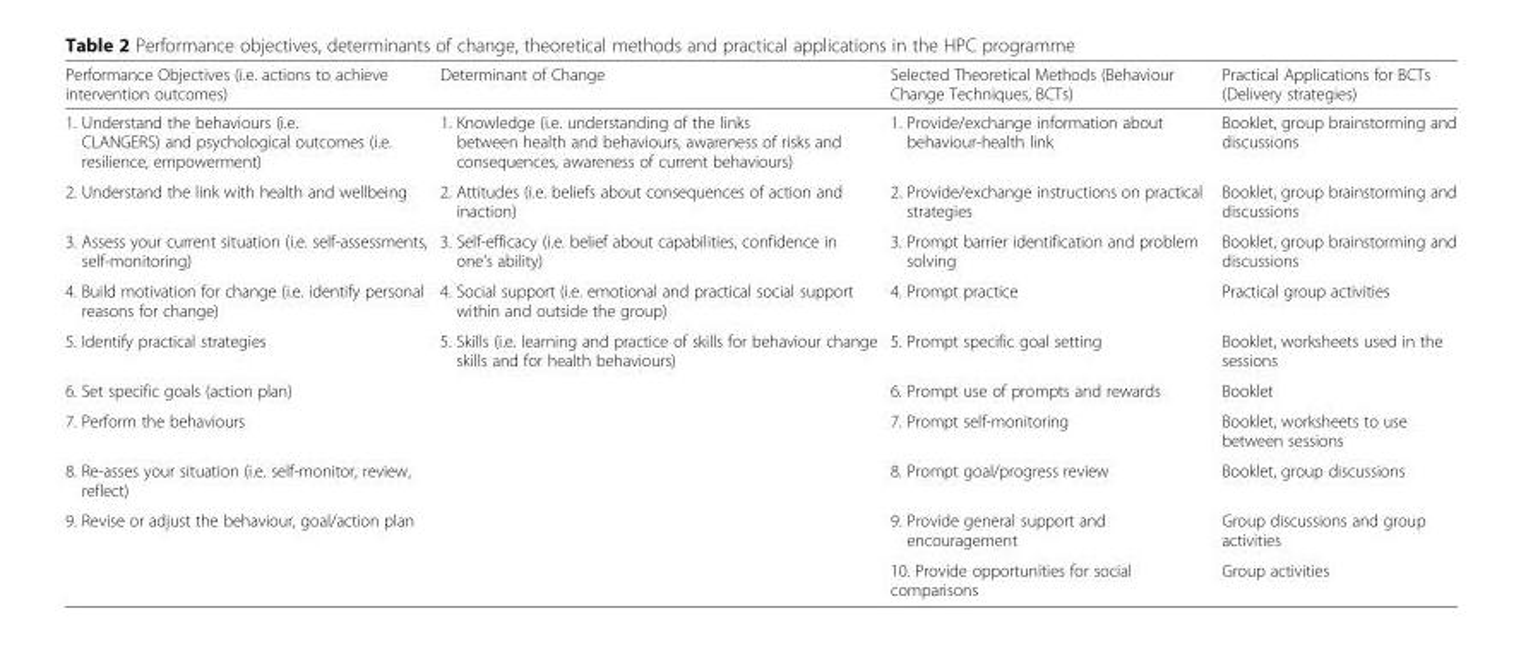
<table><thead><tr><td>Performance Objectives (i.e. actions to achieve intervention outcomes)</td><td>Determinant of Change</td><td>Selected Theoretical Methods (Behaviour Change Techniques, BCTs)</td><td>Practical Applications for BCTs (Delivery strategies)</td></tr></thead><tbody><tr><td>1. Understand the behaviours (i.e. CLANGERS) and psychological outcomes (i.e. resilience, empowerment)</td><td>1. Knowledge (i.e. understanding of the links between health and behaviours, awareness of risks and consequences, awareness of current behaviours)</td><td>1. Provide/exchange information about behaviour-health link</td><td>Booklet, group brainstorming and discussions</td></tr><tr><td>2. Understand the link with health and wellbeing</td><td>2. Attitudes (i.e. beliefs about consequences of action and inaction)</td><td>2. Provide/exchange instructions on practical strategies</td><td>Booklet, group brainstorming and discussions</td></tr><tr><td>3. Assess your current situation (i.e. self-assessments, self-monitoring)</td><td>3. Self-efficacy (i.e. belief about capabilities, confidence in one’s ability)</td><td>3. Prompt barrier identification and problem solving</td><td>Booklet, group brainstorming and discussions</td></tr><tr><td>4. Build motivation for change (i.e. identify personal reasons for change)</td><td>4. Social support (i.e. emotional and practical social support within and outside the group)</td><td>4. Prompt practice</td><td>Practical group activities</td></tr><tr><td>5. Identify practical strategies</td><td>5. Skills (i.e. learning and practice of skills for behaviour change skills and for health behaviours)</td><td>5. Prompt specific goal setting</td><td>Booklet, worksheets used in the sessions</td></tr><tr><td>6. Set specific goals (action plan)</td><td></td><td>6. Prompt use of prompts and rewards</td><td>Booklet</td></tr><tr><td>7. Perform the behaviours</td><td></td><td>7. Prompt self-monitoring</td><td>Booklet, worksheets to use between sessions</td></tr><tr><td>8. Re-asses your situation (i.e. self-monitor, review, reflect)</td><td></td><td>8. Prompt goal/progress review</td><td>Booklet, group discussions</td></tr><tr><td rowspan="2">9. Revise or adjust the behaviour, goal/action plan</td><td></td><td>9. Provide general support and encouragement</td><td>Group discussions and group activities</td></tr><tr><td></td><td>10. Provide opportunities for social comparisons</td><td>Group activities</td></tr></tbody></table>